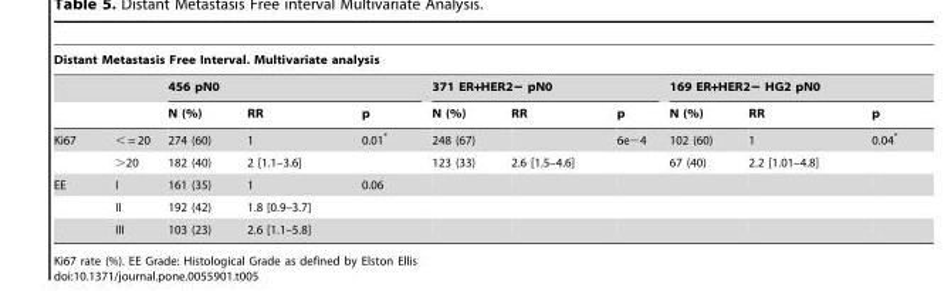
<table><thead><tr><td colspan="11">Distant Metastasis Free Interval. Multivariate analysis</td></tr><tr><td rowspan="2"></td><td rowspan="2"></td><td colspan="3">456 pN0</td><td colspan="3">371 ER+HER2− pN0</td><td colspan="3">169 ER+HER2− HG2 pN0</td></tr><tr><td>N (%)</td><td>RR</td><td>p</td><td>N (%)</td><td>RR</td><td>p</td><td>N (%)</td><td>RR</td><td>p</td></tr></thead><tbody><tr><td rowspan="2">Ki67</td><td>&lt; = 20</td><td>274 (60)</td><td>1</td><td>0.01*</td><td>248 (67)</td><td></td><td>6e−4</td><td>102 (60)</td><td>1</td><td>0.04*</td></tr><tr><td>&gt;20</td><td>182 (40)</td><td>2 [1.1–3.6]</td><td></td><td>123 (33)</td><td>2.6 [1.5–4.6]</td><td></td><td>67 (40)</td><td>2.2 [1.01–4.8]</td><td></td></tr><tr><td rowspan="3">EE</td><td>I</td><td>161 (35)</td><td>1</td><td>0.06</td><td></td><td></td><td></td><td></td><td></td><td></td></tr><tr><td>II</td><td>192 (42)</td><td>1.8 [0.9–3.7]</td><td></td><td></td><td></td><td></td><td></td><td></td><td></td></tr><tr><td>III</td><td>103 (23)</td><td>2.6 [1.1–5.8]</td><td></td><td></td><td></td><td></td><td></td><td></td><td></td></tr></tbody></table>